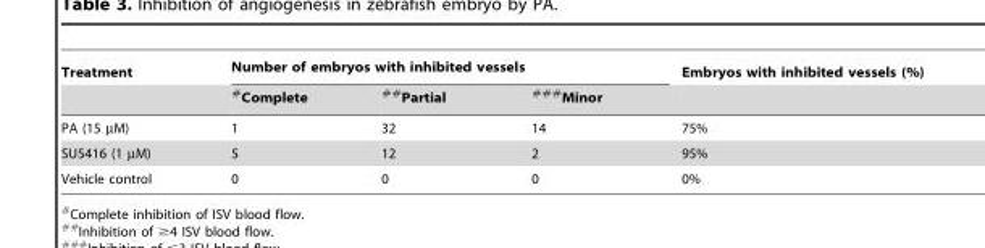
<table><thead><tr><td rowspan="2">Treatment</td><td colspan="3">Number of embryos with inhibited vessels</td><td rowspan="2">Embryos with inhibited vessels (%)</td></tr><tr><td>#Complete</td><td>##Partial</td><td>###Minor</td></tr></thead><tbody><tr><td>PA (15 µM)</td><td>1</td><td>32</td><td>14</td><td>75%</td></tr><tr><td>SU5416 (1 µM)</td><td>5</td><td>12</td><td>2</td><td>95%</td></tr><tr><td>Vehicle control</td><td>0</td><td>0</td><td>0</td><td>0%</td></tr></tbody></table>